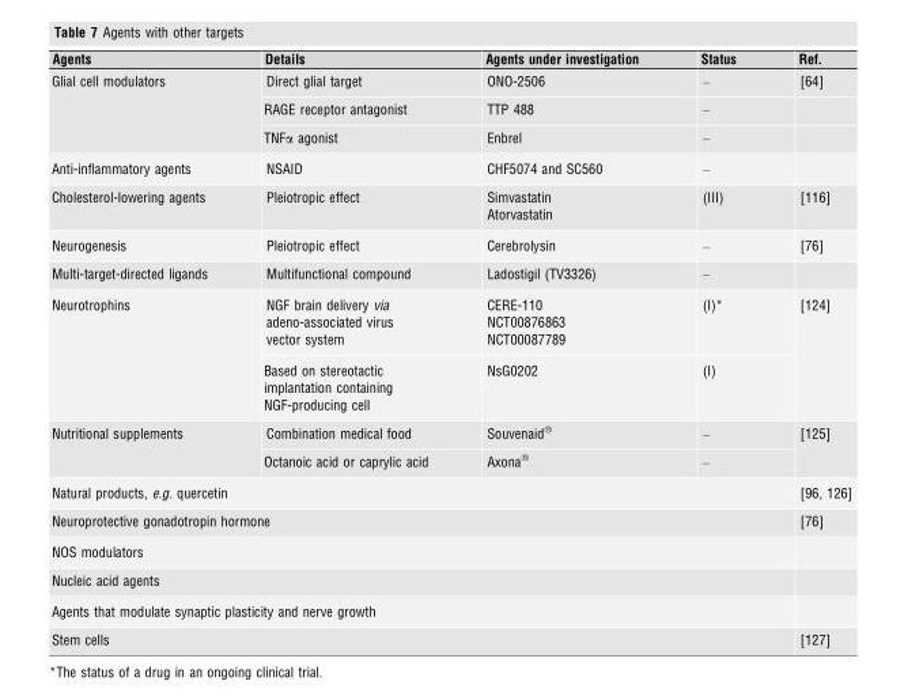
<table><thead><tr><td>Agents</td><td>Details</td><td>Agents under investigation</td><td>Status</td><td>Ref.</td></tr></thead><tbody><tr><td rowspan="3">Glial cell modulators</td><td>Direct glial target</td><td>ONO-2506</td><td>–</td><td>[64]</td></tr><tr><td>RAGE receptor antagonist</td><td>TTP 488</td><td>–</td><td></td></tr><tr><td>TNFα agonist</td><td>Enbrel</td><td>–</td><td></td></tr><tr><td>Anti-inflammatory agents</td><td>NSAID</td><td>CHF5074 and SC560</td><td>–</td><td></td></tr><tr><td>Cholesterol-lowering agents</td><td>Pleiotropic effect</td><td>Simvastatin Atorvastatin</td><td>(III)</td><td>[116]</td></tr><tr><td>Neurogenesis</td><td>Pleiotropic effect</td><td>Cerebrolysin</td><td>–</td><td>[76]</td></tr><tr><td>Multi-target-directed ligands</td><td>Multifunctional compound</td><td>Ladostigil (TV3326)</td><td>–</td><td></td></tr><tr><td rowspan="2">Neurotrophins</td><td>NGF brain delivery via adeno-associated virus vector system</td><td>CERE-110 NCT00876863 NCT00087789</td><td>(I)*</td><td rowspan="2">[124]</td></tr><tr><td>Based on stereotactic implantation containing NGF-producing cell</td><td>NsG0202</td><td>(I)</td></tr><tr><td rowspan="2">Nutritional supplements</td><td>Combination medical food</td><td>Souvenaid<sup>®</sup></td><td>–</td><td rowspan="2">[125]</td></tr><tr><td>Octanoic acid or caprylic acid</td><td>Axona<sup>®</sup></td><td>–</td></tr><tr><td colspan="4">Natural products, e.g. quercetin</td><td>[96, 126]</td></tr><tr><td colspan="4">Neuroprotective gonadotropin hormone</td><td>[76]</td></tr><tr><td colspan="5">NOS modulators</td></tr><tr><td colspan="5">Nucleic acid agents</td></tr><tr><td colspan="5">Agents that modulate synaptic plasticity and nerve growth</td></tr><tr><td colspan="4">Stem cells</td><td>[127]</td></tr></tbody></table>